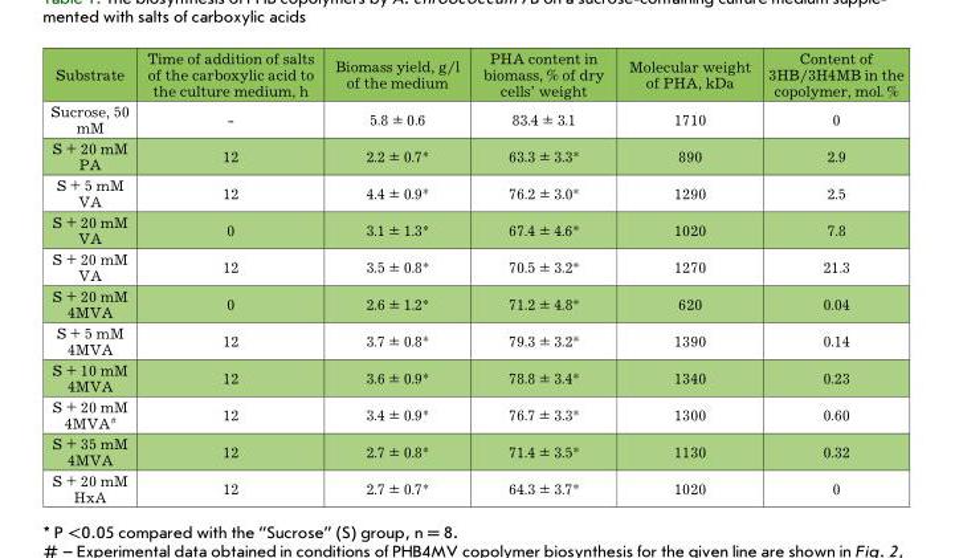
<table><thead><tr><td>Substrate</td><td>Time of addition of salts of the carboxylic acid to the culture medium, h</td><td>Biomass yield, g/l of the medium</td><td>PHA content in biomass, % of dry cells’ weight</td><td>Molecular weight of PHA, kDa</td><td>Content of 3HВ/3H4МВ in the copolymer, mol. %</td></tr></thead><tbody><tr><td>Sucrose, 50 mM</td><td>-</td><td>5.8 ± 0.6</td><td>83.4 ± 3.1</td><td>1710</td><td>0</td></tr><tr><td>S + 20 mM PA</td><td>12</td><td>2.2 ± 0.7*</td><td>63.3 ± 3.3*</td><td>890</td><td>2.9</td></tr><tr><td>S + 5 mM VA</td><td>12</td><td>4.4 ± 0.9*</td><td>76.2 ± 3.0*</td><td>1290</td><td>2.5</td></tr><tr><td>S + 20 mM VA</td><td>0</td><td>3.1 ± 1.3*</td><td>67.4 ± 4.6*</td><td>1020</td><td>7.8</td></tr><tr><td>S + 20 mM VA</td><td>12</td><td>3.5 ± 0.8*</td><td>70.5 ± 3.2*</td><td>1270</td><td>21.3</td></tr><tr><td>S + 20 mM 4MVA</td><td>0</td><td>2.6 ± 1.2*</td><td>71.2 ± 4.8*</td><td>620</td><td>0.04</td></tr><tr><td>S + 5 mM 4MVA</td><td>12</td><td>3.7 ± 0.8*</td><td>79.3 ± 3.2*</td><td>1390</td><td>0.14</td></tr><tr><td>S + 10 mM 4MVA</td><td>12</td><td>3.6 ± 0.9*</td><td>78.8 ± 3.4*</td><td>1340</td><td>0.23</td></tr><tr><td>S + 20 mM 4MVA#</td><td>12</td><td>3.4 ± 0.9*</td><td>76.7 ± 3.3*</td><td>1300</td><td>0.60</td></tr><tr><td>S + 35 mM 4MVA</td><td>12</td><td>2.7 ± 0.8*</td><td>71.4 ± 3.5*</td><td>1130</td><td>0.32</td></tr><tr><td>S + 20 mM HxA</td><td>12</td><td>2.7 ± 0.7*</td><td>64.3 ± 3.7*</td><td>1020</td><td>0</td></tr></tbody></table>